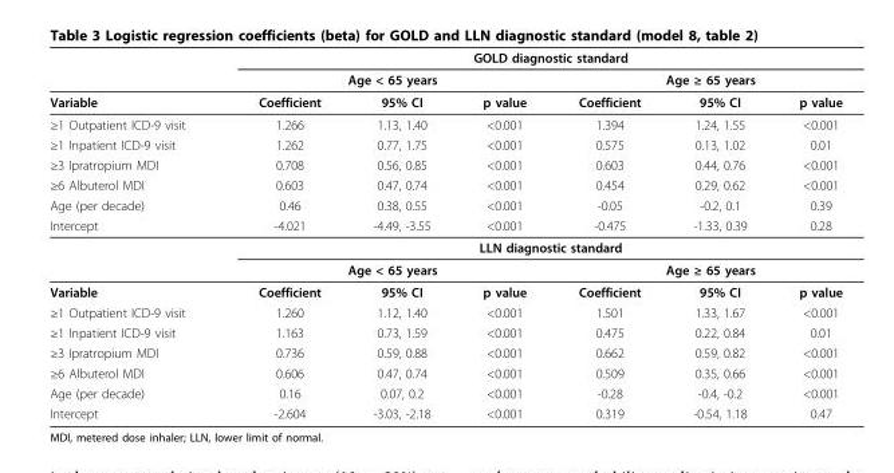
<table><thead><tr><td rowspan="3">Variable</td><td colspan="6">GOLD diagnostic standard</td></tr><tr><td colspan="3">Age &lt; 65 years</td><td colspan="3">Age ≥ 65 years</td></tr><tr><td>Coefficient</td><td>95% CI</td><td>p value</td><td>Coefficient</td><td>95% CI</td><td>p value</td></tr></thead><tbody><tr><td>≥1 Outpatient ICD-9 visit</td><td>1.266</td><td>1.13, 1.40</td><td>&lt;0.001</td><td>1.394</td><td>1.24, 1.55</td><td>&lt;0.001</td></tr><tr><td>≥1 Inpatient ICD-9 visit</td><td>1.262</td><td>0.77, 1.75</td><td>&lt;0.001</td><td>0.575</td><td>0.13, 1.02</td><td>0.01</td></tr><tr><td>≥3 Ipratropium MDI</td><td>0.708</td><td>0.56, 0.85</td><td>&lt;0.001</td><td>0.603</td><td>0.44, 0.76</td><td>&lt;0.001</td></tr><tr><td>≥6 Albuterol MDI</td><td>0.603</td><td>0.47, 0.74</td><td>&lt;0.001</td><td>0.454</td><td>0.29, 0.62</td><td>&lt;0.001</td></tr><tr><td>Age (per decade)</td><td>0.46</td><td>0.38, 0.55</td><td>&lt;0.001</td><td>-0.05</td><td>-0.2, 0.1</td><td>0.39</td></tr><tr><td rowspan="3">Intercept</td><td>-4.021</td><td>-4.49, -3.55</td><td>&lt;0.001</td><td>-0.475</td><td>-1.33, 0.39</td><td>0.28</td></tr><tr><td colspan="6">LLN diagnostic standard</td></tr><tr><td colspan="3">Age &lt; 65 years</td><td colspan="3">Age ≥ 65 years</td></tr><tr><td>Variable</td><td>Coefficient</td><td>95% CI</td><td>p value</td><td>Coefficient</td><td>95% CI</td><td>p value</td></tr><tr><td>≥1 Outpatient ICD-9 visit</td><td>1.260</td><td>1.12, 1.40</td><td>&lt;0.001</td><td>1.501</td><td>1.33, 1.67</td><td>&lt;0.001</td></tr><tr><td>≥1 Inpatient ICD-9 visit</td><td>1.163</td><td>0.73, 1.59</td><td>&lt;0.001</td><td>0.475</td><td>0.22, 0.84</td><td>0.01</td></tr><tr><td>≥3 Ipratropium MDI</td><td>0.736</td><td>0.59, 0.88</td><td>&lt;0.001</td><td>0.662</td><td>0.59, 0.82</td><td>&lt;0.001</td></tr><tr><td>≥6 Albuterol MDI</td><td>0.606</td><td>0.47, 0.74</td><td>&lt;0.001</td><td>0.509</td><td>0.35, 0.66</td><td>&lt;0.001</td></tr><tr><td>Age (per decade)</td><td>0.16</td><td>0.07, 0.2</td><td>&lt;0.001</td><td>-0.28</td><td>-0.4, -0.2</td><td>&lt;0.001</td></tr><tr><td>Intercept</td><td>-2.604</td><td>-3.03, -2.18</td><td>&lt;0.001</td><td>0.319</td><td>-0.54, 1.18</td><td>0.47</td></tr></tbody></table>